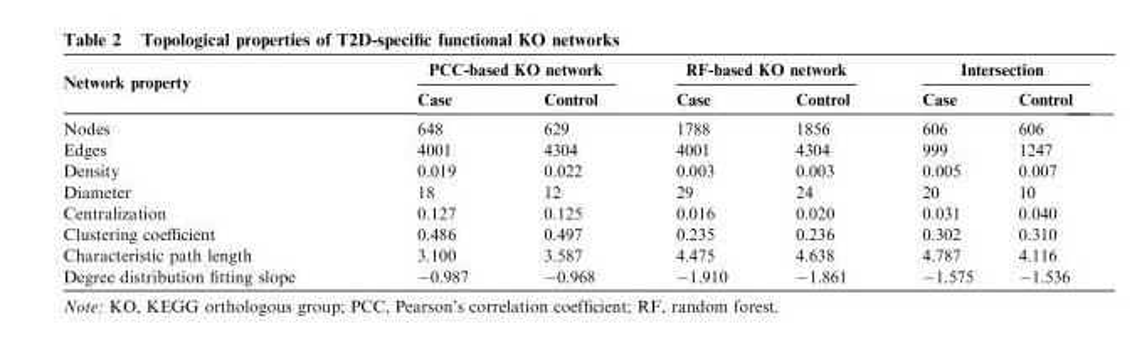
<table><thead><tr><td rowspan="2">Network property</td><td colspan="2">PCC-based KO network</td><td colspan="2">RF-based KO network</td><td colspan="2">Intersection</td></tr><tr><td>Case</td><td>Control</td><td>Case</td><td>Control</td><td>Case</td><td>Control</td></tr></thead><tbody><tr><td>Nodes</td><td>648</td><td>629</td><td>1788</td><td>1856</td><td>606</td><td>606</td></tr><tr><td>Edges</td><td>4001</td><td>4304</td><td>4001</td><td>4304</td><td>999</td><td>1247</td></tr><tr><td>Density</td><td>0.019</td><td>0.022</td><td>0.003</td><td>0.003</td><td>0.005</td><td>0.007</td></tr><tr><td>Diameter</td><td>18</td><td>12</td><td>29</td><td>24</td><td>20</td><td>10</td></tr><tr><td>Centralization</td><td>0.127</td><td>0.125</td><td>0.016</td><td>0.020</td><td>0.031</td><td>0.040</td></tr><tr><td>Clustering coefficient</td><td>0.486</td><td>0.497</td><td>0.235</td><td>0.236</td><td>0.302</td><td>0.310</td></tr><tr><td>Characteristic path length</td><td>3.100</td><td>3.587</td><td>4.475</td><td>4.638</td><td>4.787</td><td>4.116</td></tr><tr><td>Degree distribution fitting slope</td><td>−0.987</td><td>−0.968</td><td>−1.910</td><td>−1.861</td><td>−1.575</td><td>−1.536</td></tr></tbody></table>